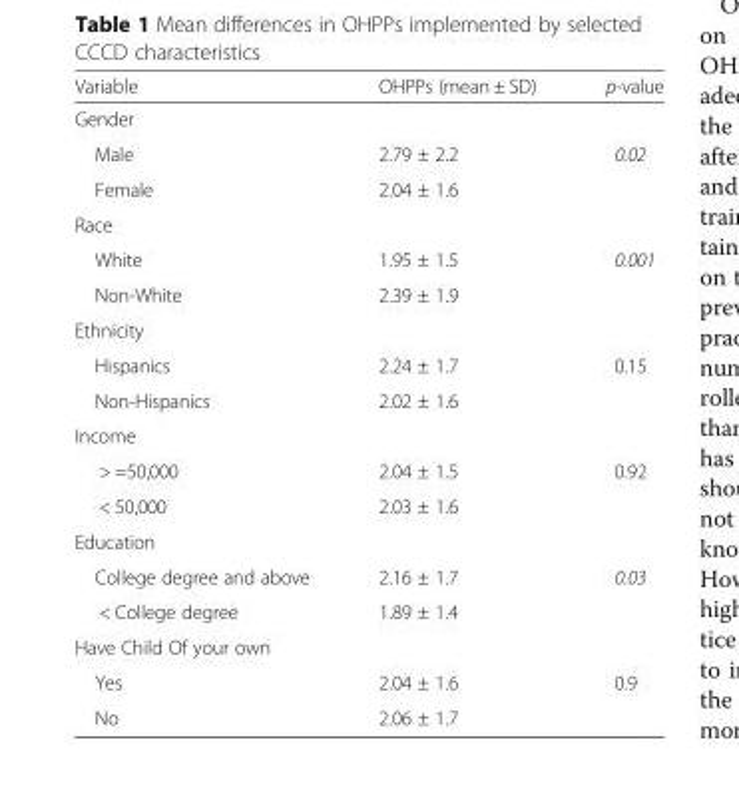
<table><thead><tr><td>Variable</td><td>OHPPs (mean ± SD)</td><td>p-value</td></tr></thead><tbody><tr><td colspan="3">Gender</td></tr><tr><td>Male</td><td>2.79 ± 2.2</td><td>0.02</td></tr><tr><td>Female</td><td>2.04 ± 1.6</td><td></td></tr><tr><td colspan="3">Race</td></tr><tr><td>White</td><td>1.95 ± 1.5</td><td>0.001</td></tr><tr><td>Non-White</td><td>2.39 ± 1.9</td><td></td></tr><tr><td colspan="3">Ethnicity</td></tr><tr><td>Hispanics</td><td>2.24 ± 1.7</td><td>0.15</td></tr><tr><td>Non-Hispanics</td><td>2.02 ± 1.6</td><td></td></tr><tr><td colspan="3">Income</td></tr><tr><td>&gt; =50,000</td><td>2.04 ± 1.5</td><td>0.92</td></tr><tr><td>&lt; 50,000</td><td>2.03 ± 1.6</td><td></td></tr><tr><td colspan="3">Education</td></tr><tr><td>College degree and above</td><td>2.16 ± 1.7</td><td>0.03</td></tr><tr><td>&lt; College degree</td><td>1.89 ± 1.4</td><td></td></tr><tr><td colspan="3">Have Child Of your own</td></tr><tr><td>Yes</td><td>2.04 ± 1.6</td><td>0.9</td></tr><tr><td>No</td><td>2.06 ± 1.7</td><td></td></tr></tbody></table>